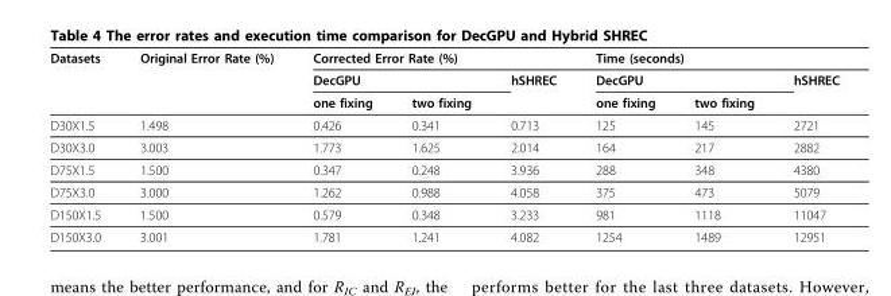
<table><thead><tr><td rowspan="3">Datasets</td><td rowspan="3">Original Error Rate (%)</td><td colspan="3">Corrected Error Rate (%)</td><td colspan="3">Time (seconds)</td></tr><tr><td colspan="2">DecGPU</td><td rowspan="2">hSHREC</td><td colspan="2">DecGPU</td><td rowspan="2">hSHREC</td></tr><tr><td>one fixing</td><td>two fixing</td><td>one fixing</td><td>two fixing</td></tr></thead><tbody><tr><td>D30X1.5</td><td>1.498</td><td>0.426</td><td>0.341</td><td>0.713</td><td>125</td><td>145</td><td>2721</td></tr><tr><td>D30X3.0</td><td>3.003</td><td>1.773</td><td>1.625</td><td>2.014</td><td>164</td><td>217</td><td>2882</td></tr><tr><td>D75X1.5</td><td>1.500</td><td>0.347</td><td>0.248</td><td>3.936</td><td>288</td><td>348</td><td>4380</td></tr><tr><td>D75X3.0</td><td>3.000</td><td>1.262</td><td>0.988</td><td>4.058</td><td>375</td><td>473</td><td>5079</td></tr><tr><td>D150X1.5</td><td>1.500</td><td>0.579</td><td>0.348</td><td>3.233</td><td>981</td><td>1118</td><td>11047</td></tr><tr><td>D150X3.0</td><td>3.001</td><td>1.781</td><td>1.241</td><td>4.082</td><td>1254</td><td>1489</td><td>12951</td></tr></tbody></table>